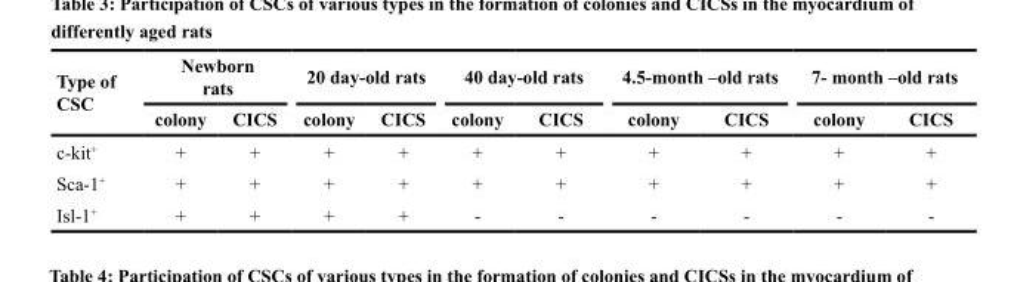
<table><thead><tr><td rowspan="2">Type of CSC</td><td colspan="2">Newborn rats</td><td colspan="2">20 day-old rats</td><td colspan="2">40 day-old rats</td><td colspan="2">4.5-month –old rats</td><td colspan="2">7- month –old rats</td></tr><tr><td>colony</td><td>CICS</td><td>colony</td><td>CICS</td><td>colony</td><td>CICS</td><td>colony</td><td>CICS</td><td>colony</td><td>CICS</td></tr></thead><tbody><tr><td>c-kit<sup>+</sup></td><td>+</td><td>+</td><td>+</td><td>+</td><td>+</td><td>+</td><td>+</td><td>+</td><td>+</td><td>+</td></tr><tr><td>Sca-1<sup>+</sup></td><td>+</td><td>+</td><td>+</td><td>+</td><td>+</td><td>+</td><td>+</td><td>+</td><td>+</td><td>+</td></tr><tr><td>Isl-1<sup>+</sup></td><td>+</td><td>+</td><td>+</td><td>+</td><td>-</td><td>-</td><td>-</td><td>-</td><td>-</td><td>-</td></tr></tbody></table>